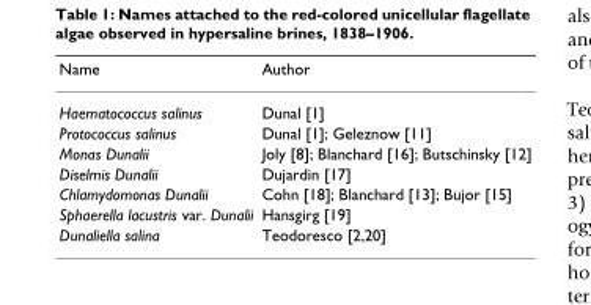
<table><thead><tr><td>Name</td><td>Author</td></tr></thead><tbody><tr><td>Haematococcus salinus</td><td>Dunal [1]</td></tr><tr><td>Protococcus salinus</td><td>Dunal [1]; Geleznow [11]</td></tr><tr><td>Monas Dunalii</td><td>Joly [8]; Blanchard [16]; Butschinsky [12]</td></tr><tr><td>Diselmis Dunalii</td><td>Dujardin [17]</td></tr><tr><td>Chlamydomonas Dunalii</td><td>Cohn [18]; Blanchard [13]; Bujor [15]</td></tr><tr><td>Sphaerella lacustris var. Dunalii</td><td>Hansgirg [19]</td></tr><tr><td>Dunaliella salina</td><td>Teodoresco [2,20]</td></tr></tbody></table>